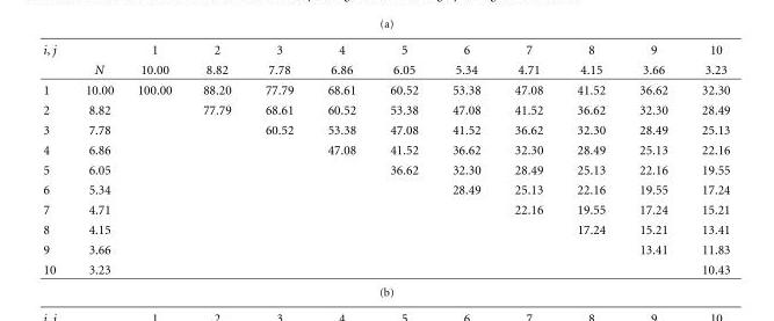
<table><thead><tr><td rowspan="2">i, j</td><td rowspan="2">N</td><td rowspan="2">1 10.00</td><td rowspan="2">2 8.82</td><td rowspan="2">3 7.78</td><td rowspan="2">4 6.86</td><td rowspan="2">5 6.05</td><td rowspan="2">6 5.34</td><td rowspan="2">7 4.71</td><td rowspan="2">8 4.15</td><td rowspan="2">9 3.66</td><td rowspan="2">10 3.23</td></tr><tr></tr></thead><tbody><tr><td>1</td><td>10.00</td><td>100.00</td><td>88.20</td><td>77.79</td><td>68.61</td><td>60.52</td><td>53.38</td><td>47.08</td><td>41.52</td><td>36.62</td><td>32.30</td></tr><tr><td>2</td><td>8.82</td><td></td><td>77.79</td><td>68.61</td><td>60.52</td><td>53.38</td><td>47.08</td><td>41.52</td><td>36.62</td><td>32.30</td><td>28.49</td></tr><tr><td>3</td><td>7.78</td><td></td><td></td><td>60.52</td><td>53.38</td><td>47.08</td><td>41.52</td><td>36.62</td><td>32.30</td><td>28.49</td><td>25.13</td></tr><tr><td>4</td><td>6.86</td><td></td><td></td><td></td><td>47.08</td><td>41.52</td><td>36.62</td><td>32.30</td><td>28.49</td><td>25.13</td><td>22.16</td></tr><tr><td>5</td><td>6.05</td><td></td><td></td><td></td><td></td><td>36.62</td><td>32.30</td><td>28.49</td><td>25.13</td><td>22.16</td><td>19.55</td></tr><tr><td>6</td><td>5.34</td><td></td><td></td><td></td><td></td><td></td><td>28.49</td><td>25.13</td><td>22.16</td><td>19.55</td><td>17.24</td></tr><tr><td>7</td><td>4.71</td><td></td><td></td><td></td><td></td><td></td><td></td><td>22.16</td><td>19.55</td><td>17.24</td><td>15.21</td></tr><tr><td>8</td><td>4.15</td><td></td><td></td><td></td><td></td><td></td><td></td><td></td><td>17.24</td><td>15.21</td><td>13.41</td></tr><tr><td>9</td><td>3.66</td><td></td><td></td><td></td><td></td><td></td><td></td><td></td><td></td><td>13.41</td><td>11.83</td></tr><tr><td>10</td><td>3.23</td><td></td><td></td><td></td><td></td><td></td><td></td><td></td><td></td><td></td><td>10.43</td></tr></tbody></table>